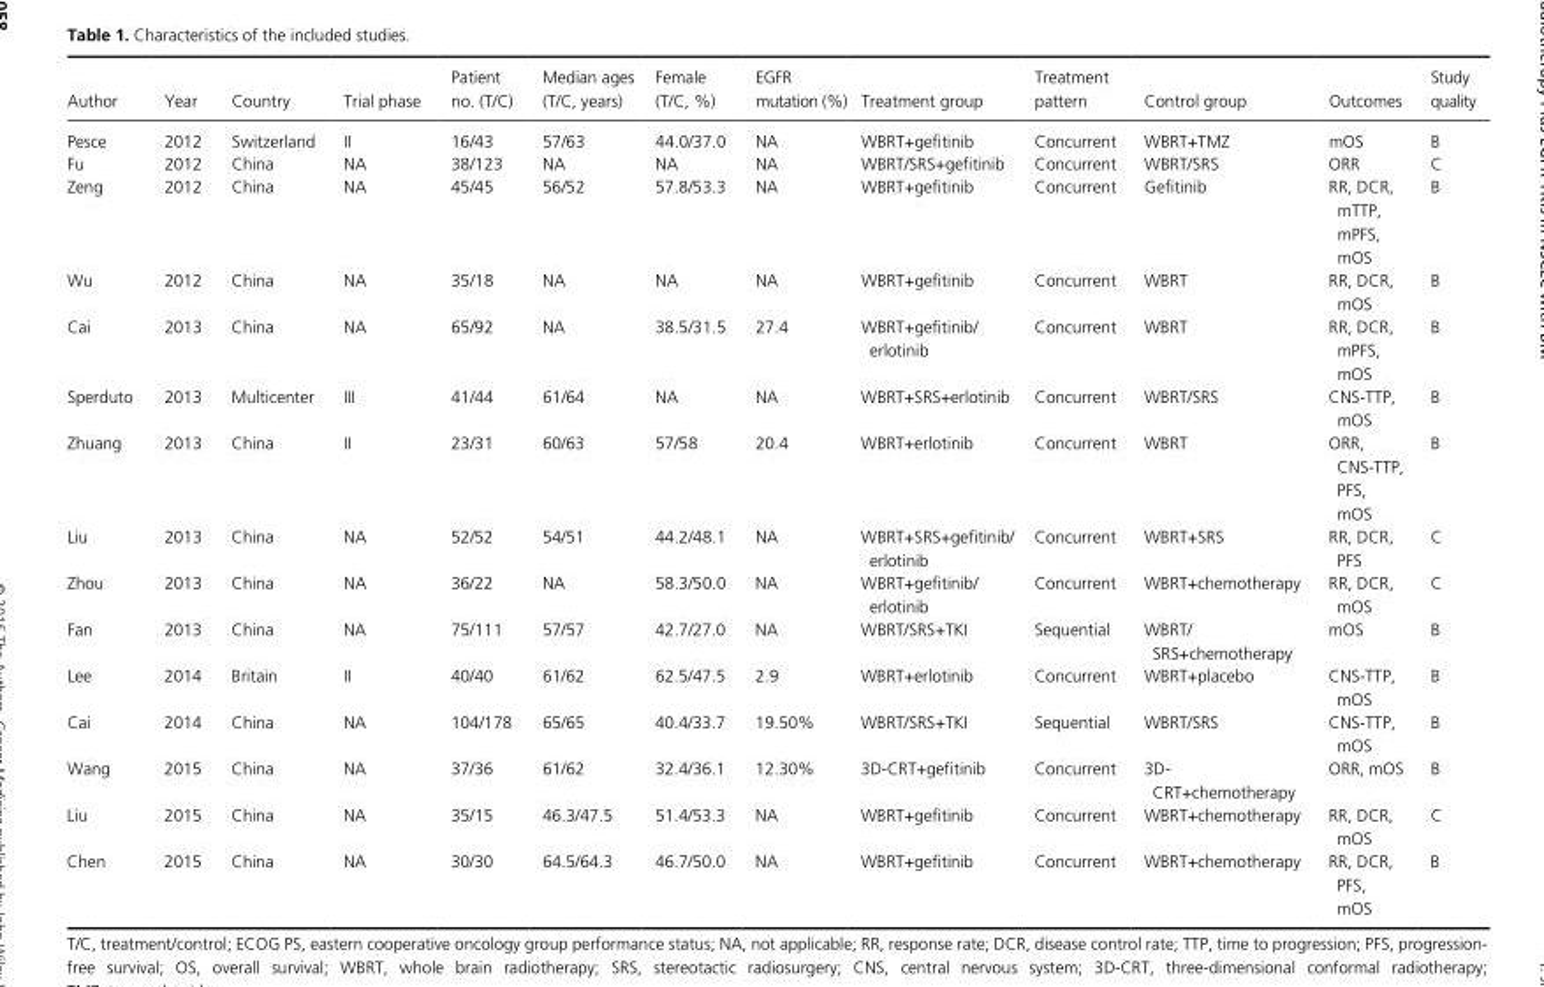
<table><thead><tr><td>Author</td><td>Year</td><td>Country</td><td>Trial phase</td><td>Patient no. (T/C)</td><td>Median ages (T/C, years)</td><td>Female (T/C, %)</td><td>EGFR mutation (%)</td><td>Treatment group</td><td>Treatment pattern</td><td>Control group</td><td>Outcomes</td><td>Study quality</td></tr></thead><tbody><tr><td>Pesce</td><td>2012</td><td>Switzerland</td><td>II</td><td>16/43</td><td>57/63</td><td>44.0/37.0</td><td>NA</td><td>WBRT+gefitinib</td><td>Concurrent</td><td>WBRT+TMZ</td><td>mOS</td><td>B</td></tr><tr><td>Fu</td><td>2012</td><td>China</td><td>NA</td><td>38/123</td><td>NA</td><td>NA</td><td>NA</td><td>WBRT/SRS+gefitinib</td><td>Concurrent</td><td>WBRT/SRS</td><td>ORR</td><td>C</td></tr><tr><td>Zeng</td><td>2012</td><td>China</td><td>NA</td><td>45/45</td><td>56/52</td><td>57.8/53.3</td><td>NA</td><td>WBRT+gefitinib</td><td>Concurrent</td><td>Gefitinib</td><td>RR, DCR, mTTP, mPFS, mOS</td><td>B</td></tr><tr><td>Wu</td><td>2012</td><td>China</td><td>NA</td><td>35/18</td><td>NA</td><td>NA</td><td>NA</td><td>WBRT+gefitinib</td><td>Concurrent</td><td>WBRT</td><td>RR, DCR, mOS</td><td>B</td></tr><tr><td>Cai</td><td>2013</td><td>China</td><td>NA</td><td>65/92</td><td>NA</td><td>38.5/31.5</td><td>27.4</td><td>WBRT+gefitinib/ erlotinib</td><td>Concurrent</td><td>WBRT</td><td>RR, DCR, mPFS, mOS</td><td>B</td></tr><tr><td>Sperduto</td><td>2013</td><td>Multicenter</td><td>III</td><td>41/44</td><td>61/64</td><td>NA</td><td>NA</td><td>WBRT+SRS+erlotinib</td><td>Concurrent</td><td>WBRT/SRS</td><td>CNS- TTP, mOS</td><td>B</td></tr><tr><td>Zhuang</td><td>2013</td><td>China</td><td>II</td><td>23/31</td><td>60/63</td><td>57/58</td><td>20.4</td><td>WBRT+erlotinib</td><td>Concurrent</td><td>WBRT</td><td>ORR, CNS- TTP, PFS, mOS</td><td>B</td></tr><tr><td>Liu</td><td>2013</td><td>China</td><td>NA</td><td>52/52</td><td>54/51</td><td>44.2/48.1</td><td>NA</td><td>WBRT+SRS+gefitinib/ erlotinib</td><td>Concurrent</td><td>WBRT+SRS</td><td>RR, DCR, PFS</td><td>C</td></tr><tr><td>Zhou</td><td>2013</td><td>China</td><td>NA</td><td>36/22</td><td>NA</td><td>58.3/50.0</td><td>NA</td><td>WBRT+gefitinib/ erlotinib</td><td>Concurrent</td><td>WBRT+chemotherapy</td><td>RR, DCR, mOS</td><td>C</td></tr><tr><td>Fan</td><td>2013</td><td>China</td><td>NA</td><td>75/111</td><td>57/57</td><td>42.7/27.0</td><td>NA</td><td>WBRT/SRS+TKI</td><td>Sequential</td><td>WBRT/ SRS+chemotherapy</td><td>mOS</td><td>B</td></tr><tr><td>Lee</td><td>2014</td><td>Britain</td><td>II</td><td>40/40</td><td>61/62</td><td>62.5/47.5</td><td>2.9</td><td>WBRT+erlotinib</td><td>Concurrent</td><td>WBRT+placebo</td><td>CNS- TTP, mOS</td><td>B</td></tr><tr><td>Cai</td><td>2014</td><td>China</td><td>NA</td><td>104/178</td><td>65/65</td><td>40.4/33.7</td><td>19.50%</td><td>WBRT/SRS+TKI</td><td>Sequential</td><td>WBRT/SRS</td><td>CNS- TTP, mOS</td><td>B</td></tr><tr><td>Wang</td><td>2015</td><td>China</td><td>NA</td><td>37/36</td><td>61/62</td><td>32.4/36.1</td><td>12.30%</td><td>3D- CRT+gefitinib</td><td>Concurrent</td><td>3D- CRT+chemotherapy</td><td>ORR, mOS</td><td>B</td></tr><tr><td>Liu</td><td>2015</td><td>China</td><td>NA</td><td>35/15</td><td>46.3/47.5</td><td>51.4/53.3</td><td>NA</td><td>WBRT+gefitinib</td><td>Concurrent</td><td>WBRT+chemotherapy</td><td>RR, DCR, mOS</td><td>C</td></tr><tr><td>Chen</td><td>2015</td><td>China</td><td>NA</td><td>30/30</td><td>64.5/64.3</td><td>46.7/50.0</td><td>NA</td><td>WBRT+gefitinib</td><td>Concurrent</td><td>WBRT+chemotherapy</td><td>RR, DCR, PFS, mOS</td><td>B</td></tr></tbody></table>